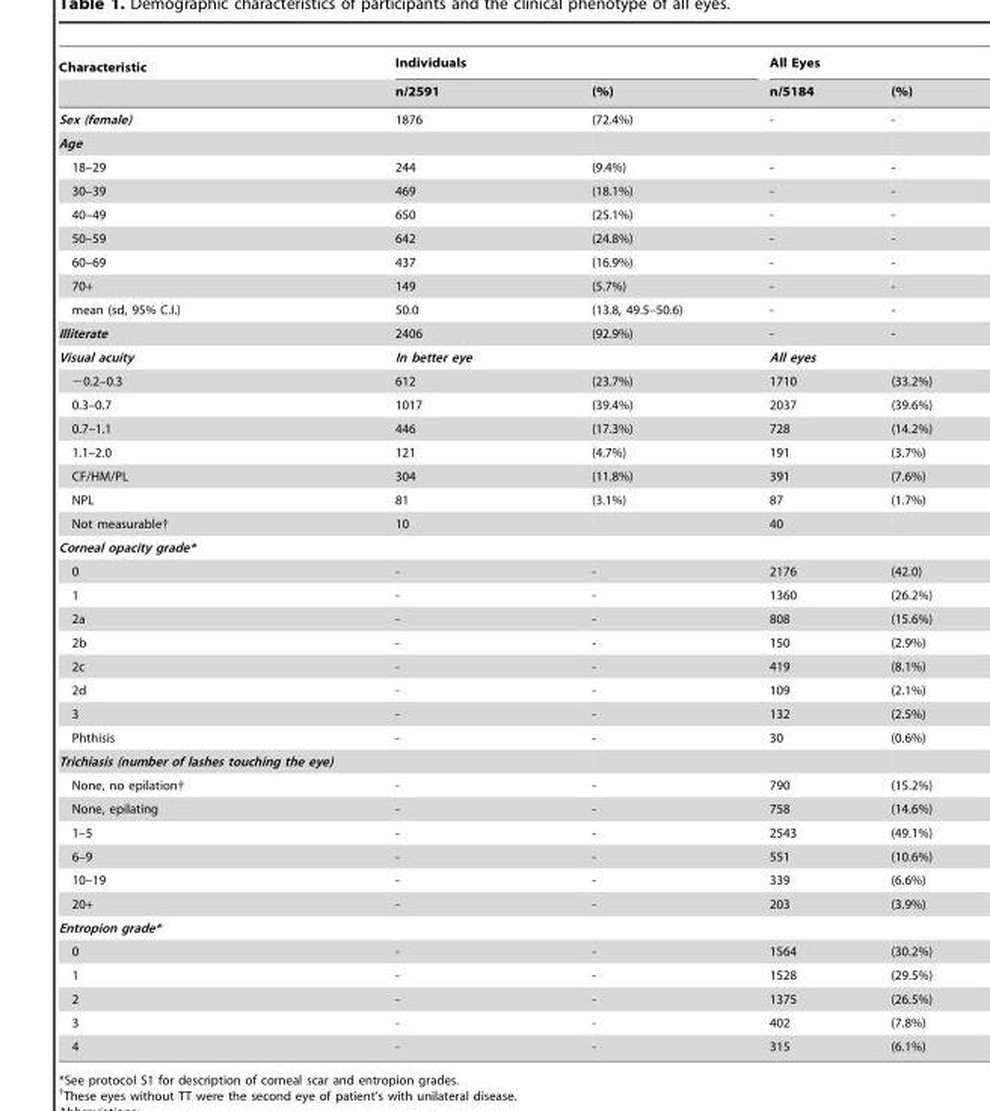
<table><thead><tr><td rowspan="2">Characteristic</td><td colspan="2">Individuals</td><td colspan="2">All Eyes</td></tr><tr><td>n/2591</td><td>(%)</td><td>n/5184</td><td>(%)</td></tr></thead><tbody><tr><td>Sex (female)</td><td>1876</td><td>(72.4%)</td><td>-</td><td>-</td></tr><tr><td colspan="5">Age</td></tr><tr><td>18–29</td><td>244</td><td>(9.4%)</td><td>-</td><td>-</td></tr><tr><td>30–39</td><td>469</td><td>(18.1%)</td><td>-</td><td>-</td></tr><tr><td>40–49</td><td>650</td><td>(25.1%)</td><td>-</td><td>-</td></tr><tr><td>50–59</td><td>642</td><td>(24.8%)</td><td>-</td><td>-</td></tr><tr><td>60–69</td><td>437</td><td>(16.9%)</td><td>-</td><td>-</td></tr><tr><td>70+</td><td>149</td><td>(5.7%)</td><td>-</td><td>-</td></tr><tr><td>mean (sd, 95% C.I.)</td><td>50.0</td><td>(13.8, 49.5–50.6)</td><td>-</td><td>-</td></tr><tr><td>Illiterate</td><td>2406</td><td>(92.9%)</td><td>-</td><td>-</td></tr><tr><td>Visual acuity</td><td colspan="2">In better eye</td><td colspan="2">All eyes</td></tr><tr><td>−0.2–0.3</td><td>612</td><td>(23.7%)</td><td>1710</td><td>(33.2%)</td></tr><tr><td>0.3–0.7</td><td>1017</td><td>(39.4%)</td><td>2037</td><td>(39.6%)</td></tr><tr><td>0.7–1.1</td><td>446</td><td>(17.3%)</td><td>728</td><td>(14.2%)</td></tr><tr><td>1.1–2.0</td><td>121</td><td>(4.7%)</td><td>191</td><td>(3.7%)</td></tr><tr><td>CF/HM/PL</td><td>304</td><td>(11.8%)</td><td>391</td><td>(7.6%)</td></tr><tr><td>NPL</td><td>81</td><td>(3.1%)</td><td>87</td><td>(1.7%)</td></tr><tr><td>Not measurable†</td><td>10</td><td></td><td>40</td><td></td></tr><tr><td colspan="5">Corneal opacity grade*</td></tr><tr><td>0</td><td>-</td><td>-</td><td>2176</td><td>(42.0)</td></tr><tr><td>1</td><td>-</td><td>-</td><td>1360</td><td>(26.2%)</td></tr><tr><td>2a</td><td>-</td><td>-</td><td>808</td><td>(15.6%)</td></tr><tr><td>2b</td><td>-</td><td>-</td><td>150</td><td>(2.9%)</td></tr><tr><td>2c</td><td>-</td><td>-</td><td>419</td><td>(8.1%)</td></tr><tr><td>2d</td><td>-</td><td>-</td><td>109</td><td>(2.1%)</td></tr><tr><td>3</td><td>-</td><td>-</td><td>132</td><td>(2.5%)</td></tr><tr><td>Phthisis</td><td>-</td><td>-</td><td>30</td><td>(0.6%)</td></tr><tr><td colspan="5">Trichiasis (number of lashes touching the eye)</td></tr><tr><td>None, no epilation†</td><td>-</td><td>-</td><td>790</td><td>(15.2%)</td></tr><tr><td>None, epilating</td><td>-</td><td>-</td><td>758</td><td>(14.6%)</td></tr><tr><td>1–5</td><td>-</td><td>-</td><td>2543</td><td>(49.1%)</td></tr><tr><td>6–9</td><td>-</td><td>-</td><td>551</td><td>(10.6%)</td></tr><tr><td>10–19</td><td>-</td><td>-</td><td>339</td><td>(6.6%)</td></tr><tr><td>20+</td><td>-</td><td>-</td><td>203</td><td>(3.9%)</td></tr><tr><td colspan="5">Entropion grade*</td></tr><tr><td>0</td><td>-</td><td>-</td><td>1564</td><td>(30.2%)</td></tr><tr><td>1</td><td>-</td><td>-</td><td>1528</td><td>(29.5%)</td></tr><tr><td>2</td><td>-</td><td>-</td><td>1375</td><td>(26.5%)</td></tr><tr><td>3</td><td>-</td><td>-</td><td>402</td><td>(7.8%)</td></tr><tr><td>4</td><td>-</td><td>-</td><td>315</td><td>(6.1%)</td></tr></tbody></table>